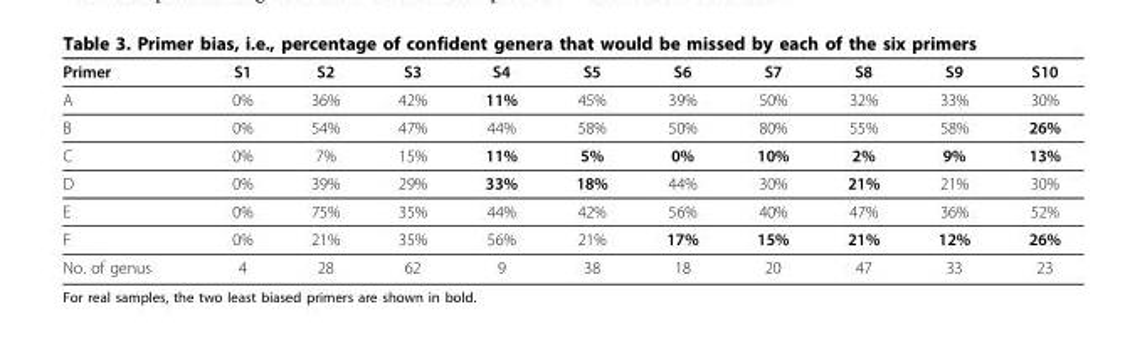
<table><thead><tr><td>Primer</td><td>S1</td><td>S2</td><td>S3</td><td>S4</td><td>S5</td><td>S6</td><td>S7</td><td>S8</td><td>S9</td><td>S10</td></tr></thead><tbody><tr><td>A</td><td>0%</td><td>36%</td><td>42%</td><td>11%</td><td>45%</td><td>39%</td><td>50%</td><td>32%</td><td>33%</td><td>30%</td></tr><tr><td>B</td><td>0%</td><td>54%</td><td>47%</td><td>44%</td><td>58%</td><td>50%</td><td>80%</td><td>55%</td><td>58%</td><td>26%</td></tr><tr><td>C</td><td>0%</td><td>7%</td><td>15%</td><td>11%</td><td>5%</td><td>0%</td><td>10%</td><td>2%</td><td>9%</td><td>13%</td></tr><tr><td>D</td><td>0%</td><td>39%</td><td>29%</td><td>33%</td><td>18%</td><td>44%</td><td>30%</td><td>21%</td><td>21%</td><td>30%</td></tr><tr><td>E</td><td>0%</td><td>75%</td><td>35%</td><td>44%</td><td>42%</td><td>56%</td><td>40%</td><td>47%</td><td>36%</td><td>52%</td></tr><tr><td>F</td><td>0%</td><td>21%</td><td>35%</td><td>56%</td><td>21%</td><td>17%</td><td>15%</td><td>21%</td><td>12%</td><td>26%</td></tr><tr><td>No. of genus</td><td>4</td><td>28</td><td>62</td><td>9</td><td>38</td><td>18</td><td>20</td><td>47</td><td>33</td><td>23</td></tr></tbody></table>